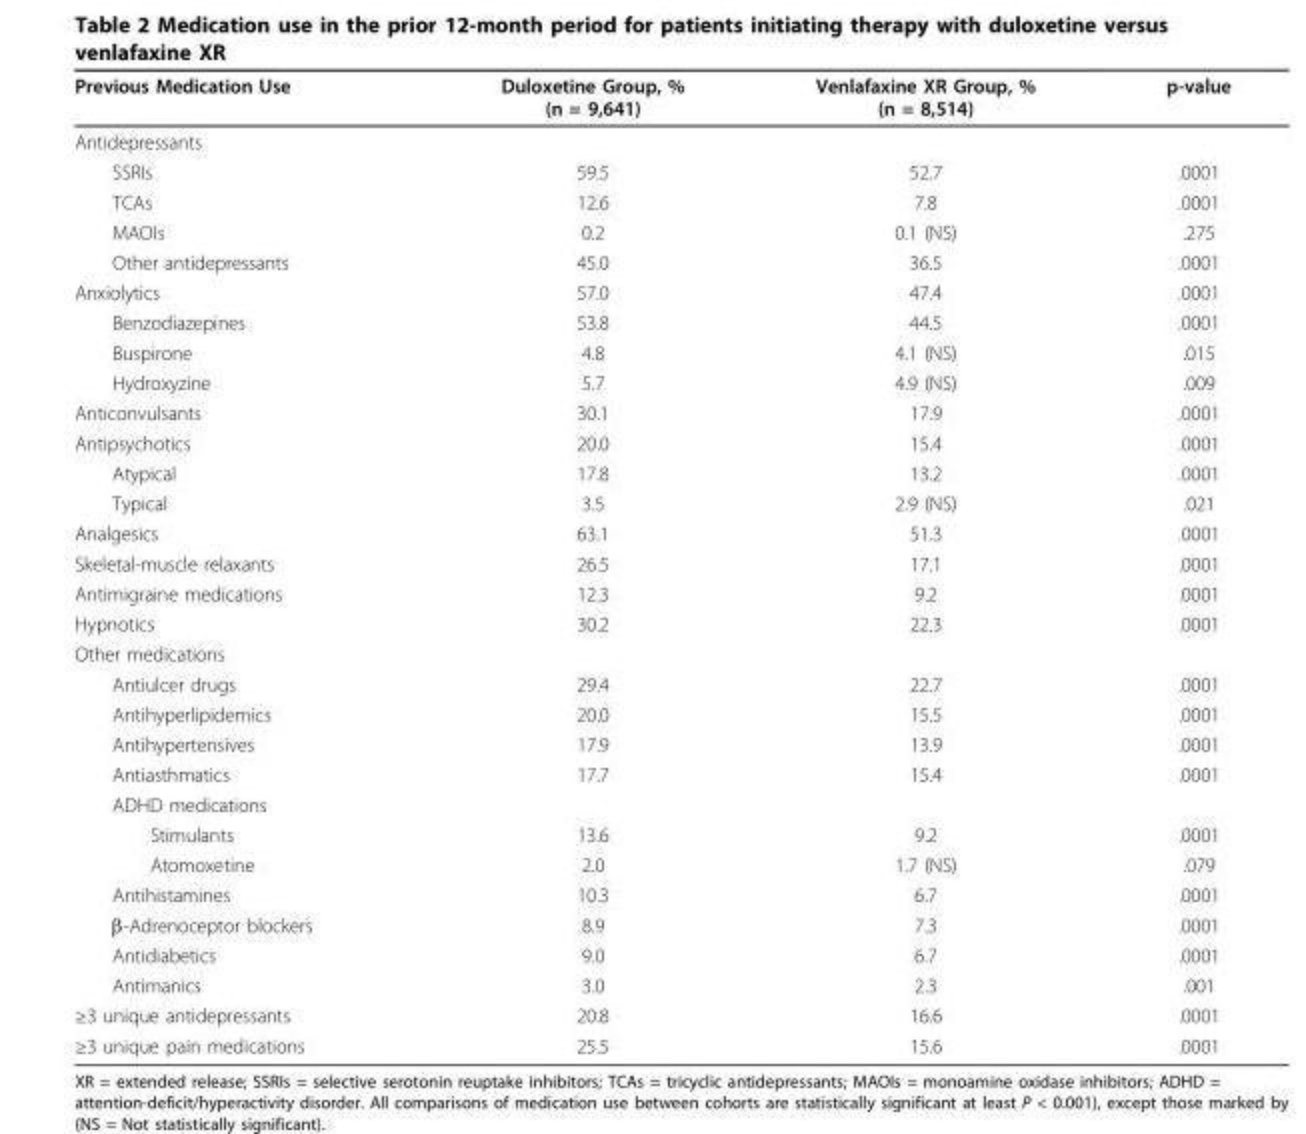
<table><thead><tr><td>Previous Medication Use</td><td>Duloxetine Group, % (n = 9,641)</td><td>Venlafaxine XR Group, % (n = 8,514)</td><td>p-value</td></tr></thead><tbody><tr><td colspan="4">Antidepressants</td></tr><tr><td>SSRIs</td><td>59.5</td><td>52.7</td><td>.0001</td></tr><tr><td>TCAs</td><td>12.6</td><td>7.8</td><td>.0001</td></tr><tr><td>MAOIs</td><td>0.2</td><td>0.1 (NS)</td><td>.275</td></tr><tr><td>Other antidepressants</td><td>45.0</td><td>36.5</td><td>.0001</td></tr><tr><td>Anxiolytics</td><td>57.0</td><td>47.4</td><td>.0001</td></tr><tr><td>Benzodiazepines</td><td>53.8</td><td>44.5</td><td>.0001</td></tr><tr><td>Buspirone</td><td>4.8</td><td>4.1 (NS)</td><td>.015</td></tr><tr><td>Hydroxyzine</td><td>5.7</td><td>4.9 (NS)</td><td>.009</td></tr><tr><td>Anticonvulsants</td><td>30.1</td><td>17.9</td><td>.0001</td></tr><tr><td>Antipsychotics</td><td>20.0</td><td>15.4</td><td>.0001</td></tr><tr><td>Atypical</td><td>17.8</td><td>13.2</td><td>.0001</td></tr><tr><td>Typical</td><td>3.5</td><td>2.9 (NS)</td><td>.021</td></tr><tr><td>Analgesics</td><td>63.1</td><td>51.3</td><td>.0001</td></tr><tr><td>Skeletal-muscle relaxants</td><td>26.5</td><td>17.1</td><td>.0001</td></tr><tr><td>Antimigraine medications</td><td>12.3</td><td>9.2</td><td>.0001</td></tr><tr><td>Hypnotics</td><td>30.2</td><td>22.3</td><td>.0001</td></tr><tr><td colspan="4">Other medications</td></tr><tr><td>Antiulcer drugs</td><td>29.4</td><td>22.7</td><td>.0001</td></tr><tr><td>Antihyperlipidemics</td><td>20.0</td><td>15.5</td><td>.0001</td></tr><tr><td>Antihypertensives</td><td>17.9</td><td>13.9</td><td>.0001</td></tr><tr><td>Antiasthmatics</td><td>17.7</td><td>15.4</td><td>.0001</td></tr><tr><td colspan="4">ADHD medications</td></tr><tr><td>Stimulants</td><td>13.6</td><td>9.2</td><td>.0001</td></tr><tr><td>Atomoxetine</td><td>2.0</td><td>1.7 (NS)</td><td>.079</td></tr><tr><td>Antihistamines</td><td>10.3</td><td>6.7</td><td>.0001</td></tr><tr><td>β-Adrenoceptor blockers</td><td>8.9</td><td>7.3</td><td>.0001</td></tr><tr><td>Antidiabetics</td><td>9.0</td><td>6.7</td><td>.0001</td></tr><tr><td>Antimanics</td><td>3.0</td><td>2.3</td><td>.001</td></tr><tr><td>≥3 unique antidepressants</td><td>20.8</td><td>16.6</td><td>.0001</td></tr><tr><td>≥3 unique pain medications</td><td>25.5</td><td>15.6</td><td>.0001</td></tr></tbody></table>